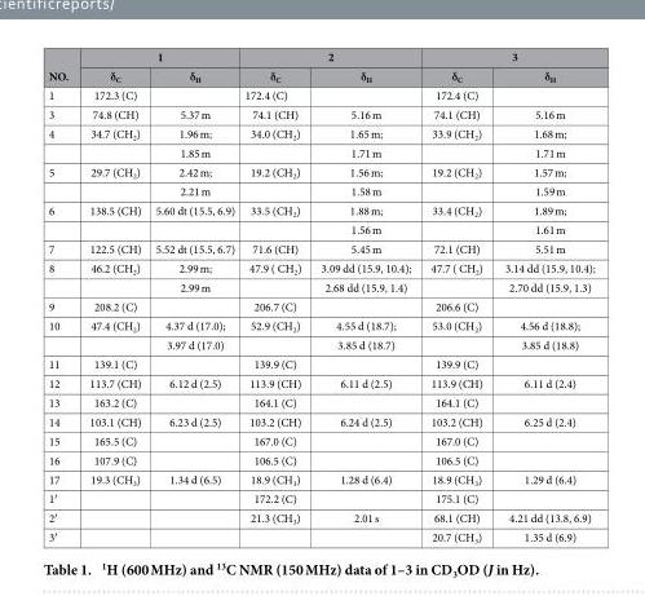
<table><thead><tr><td rowspan="2">NO.</td><td colspan="2">1</td><td colspan="2">2</td><td colspan="2">3</td></tr><tr><td>δ<sub>C</sub></td><td>δ<sub>H</sub></td><td>δ<sub>C</sub></td><td>δ<sub>H</sub></td><td>δ<sub>C</sub></td><td>δ<sub>H</sub></td></tr></thead><tbody><tr><td>1</td><td>172.3 (C)</td><td></td><td>172.4 (C)</td><td></td><td>172.4 (C)</td><td></td></tr><tr><td>3</td><td>74.8 (CH)</td><td>5.37 m</td><td>74.1 (CH)</td><td>5.16 m</td><td>74.1 (CH)</td><td>5.16 m</td></tr><tr><td rowspan="2">4</td><td>34.7 (CH<sub>2</sub>)</td><td>1.96 m;</td><td>34.0 (CH<sub>2</sub>)</td><td>1.65 m;</td><td>33.9 (CH<sub>2</sub>)</td><td>1.68 m;</td></tr><tr><td></td><td>1.85 m</td><td></td><td>1.71 m</td><td></td><td>1.71 m</td></tr><tr><td rowspan="2">5</td><td>29.7 (CH<sub>2</sub>)</td><td>2.42 m;</td><td>19.2 (CH<sub>2</sub>)</td><td>1.56 m;</td><td>19.2 (CH<sub>2</sub>)</td><td>1.57 m;</td></tr><tr><td></td><td>2.21 m</td><td></td><td>1.58 m</td><td></td><td>1.59 m</td></tr><tr><td rowspan="2">6</td><td>138.5 (CH)</td><td>5.60 dt (15.5, 6.9)</td><td>33.5 (CH<sub>2</sub>)</td><td>1.88 m;</td><td>33.4 (CH<sub>2</sub>)</td><td>1.89 m;</td></tr><tr><td></td><td></td><td></td><td>1.56 m</td><td></td><td>1.61 m</td></tr><tr><td>7</td><td>122.5 (CH)</td><td>5.52 dt (15.5, 6.7)</td><td>71.6 (CH)</td><td>5.45 m</td><td>72.1 (CH)</td><td>5.51 m</td></tr><tr><td rowspan="2">8</td><td>46.2 (CH<sub>2</sub>)</td><td>2.99 m;</td><td>47.9 ( CH<sub>2</sub>)</td><td>3.09 dd (15.9, 10.4);</td><td>47.7 ( CH<sub>2</sub>)</td><td>3.14 dd (15.9, 10.4);</td></tr><tr><td></td><td>2.99 m</td><td></td><td>2.68 dd (15.9, 1.4)</td><td></td><td>2.70 dd (15.9, 1.3)</td></tr><tr><td>9</td><td>208.2 (C)</td><td></td><td>206.7 (C)</td><td></td><td>206.6 (C)</td><td></td></tr><tr><td rowspan="2">10</td><td>47.4 (CH<sub>2</sub>)</td><td>4.37 d (17.0);</td><td>52.9 (CH<sub>2</sub>)</td><td>4.55 d (18.7);</td><td>53.0 (CH<sub>2</sub>)</td><td>4.56 d (18.8);</td></tr><tr><td></td><td>3.97 d (17.0)</td><td></td><td>3.85 d (18.7)</td><td></td><td>3.85 d (18.8)</td></tr><tr><td>11</td><td>139.1 (C)</td><td></td><td>139.9 (C)</td><td></td><td>139.9 (C)</td><td></td></tr><tr><td>12</td><td>113.7 (CH)</td><td>6.12 d (2.5)</td><td>113.9 (CH)</td><td>6.11 d (2.5)</td><td>113.9 (CH)</td><td>6.11 d (2.4)</td></tr><tr><td>13</td><td>163.2 (C)</td><td></td><td>164.1 (C)</td><td></td><td>164.1 (C)</td><td></td></tr><tr><td>14</td><td>103.1 (CH)</td><td>6.23 d (2.5)</td><td>103.2 (CH)</td><td>6.24 d (2.5)</td><td>103.2 (CH)</td><td>6.25 d (2.4)</td></tr><tr><td>15</td><td>165.5 (C)</td><td></td><td>167.0 (C)</td><td></td><td>167.0 (C)</td><td></td></tr><tr><td>16</td><td>107.9 (C)</td><td></td><td>106.5 (C)</td><td></td><td>106.5 (C)</td><td></td></tr><tr><td>17</td><td>19.3 (CH<sub>3</sub>)</td><td>1.34 d (6.5)</td><td>18.9 (CH<sub>3</sub>)</td><td>1.28 d (6.4)</td><td>18.9 (CH<sub>3</sub>)</td><td>1.29 d (6.4)</td></tr><tr><td>1′</td><td></td><td></td><td>172.2 (C)</td><td></td><td>175.1 (C)</td><td></td></tr><tr><td>2′</td><td></td><td></td><td>21.3 (CH<sub>3</sub>)</td><td>2.01 s</td><td>68.1 (CH)</td><td>4.21 dd (13.8, 6.9)</td></tr><tr><td>3′</td><td></td><td></td><td></td><td></td><td>20.7 (CH<sub>3</sub>)</td><td>1.35 d (6.9)</td></tr></tbody></table>